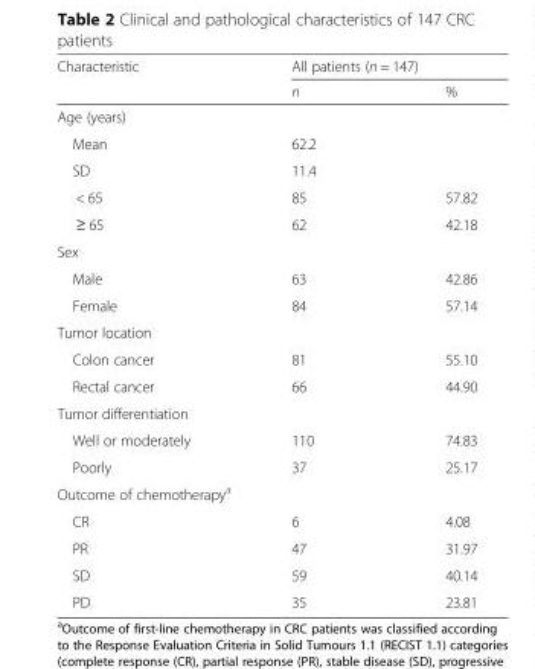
<table><thead><tr><td rowspan="2">Characteristic</td><td colspan="2">All patients (n = 147)</td></tr><tr><td>n</td><td>%</td></tr></thead><tbody><tr><td colspan="3">Age (years)</td></tr><tr><td>Mean</td><td colspan="2">62.2</td></tr><tr><td>SD</td><td colspan="2">11.4</td></tr><tr><td>&lt; 65</td><td>85</td><td>57.82</td></tr><tr><td>≥ 65</td><td>62</td><td>42.18</td></tr><tr><td colspan="3">Sex</td></tr><tr><td>Male</td><td>63</td><td>42.86</td></tr><tr><td>Female</td><td>84</td><td>57.14</td></tr><tr><td colspan="3">Tumor location</td></tr><tr><td>Colon cancer</td><td>81</td><td>55.10</td></tr><tr><td>Rectal cancer</td><td>66</td><td>44.90</td></tr><tr><td colspan="3">Tumor differentiation</td></tr><tr><td>Well or moderately</td><td>110</td><td>74.83</td></tr><tr><td>Poorly</td><td>37</td><td>25.17</td></tr><tr><td colspan="3">Outcome of chemotherapy<sup>a</sup></td></tr><tr><td>CR</td><td>6</td><td>4.08</td></tr><tr><td>PR</td><td>47</td><td>31.97</td></tr><tr><td>SD</td><td>59</td><td>40.14</td></tr><tr><td>PD</td><td>35</td><td>23.81</td></tr></tbody></table>